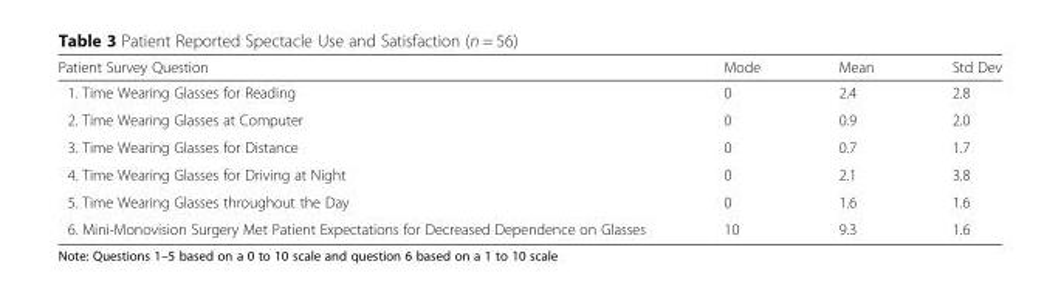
<table><thead><tr><td>Patient Survey Question</td><td>Mode</td><td>Mean</td><td>Std Dev</td></tr></thead><tbody><tr><td>1. Time Wearing Glasses for Reading</td><td>0</td><td>2.4</td><td>2.8</td></tr><tr><td>2. Time Wearing Glasses at Computer</td><td>0</td><td>0.9</td><td>2.0</td></tr><tr><td>3. Time Wearing Glasses for Distance</td><td>0</td><td>0.7</td><td>1.7</td></tr><tr><td>4. Time Wearing Glasses for Driving at Night</td><td>0</td><td>2.1</td><td>3.8</td></tr><tr><td>5. Time Wearing Glasses throughout the Day</td><td>0</td><td>1.6</td><td>1.6</td></tr><tr><td>6. Mini-Monovision Surgery Met Patient Expectations for Decreased Dependence on Glasses</td><td>10</td><td>9.3</td><td>1.6</td></tr></tbody></table>